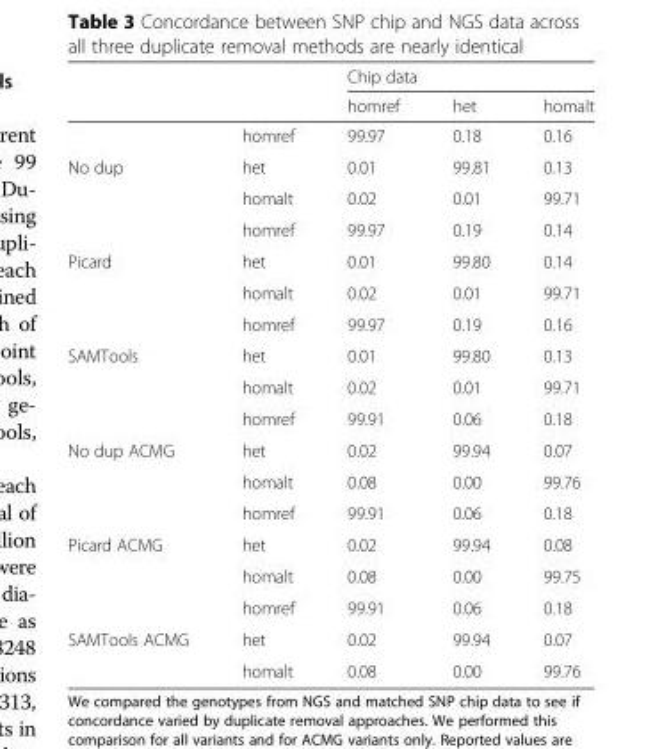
<table><thead><tr><td rowspan="2"></td><td rowspan="2"></td><td colspan="3">Chip data</td></tr><tr><td>homref</td><td>het</td><td>homalt</td></tr></thead><tbody><tr><td></td><td>homref</td><td>99.97</td><td>0.18</td><td>0.16</td></tr><tr><td rowspan="3">No dup</td><td>het</td><td>0.01</td><td>99.81</td><td>0.13</td></tr><tr><td>homalt</td><td>0.02</td><td>0.01</td><td>99.71</td></tr><tr><td>homref</td><td>99.97</td><td>0.19</td><td>0.14</td></tr><tr><td rowspan="3">Picard</td><td>het</td><td>0.01</td><td>99.80</td><td>0.14</td></tr><tr><td>homalt</td><td>0.02</td><td>0.01</td><td>99.71</td></tr><tr><td>homref</td><td>99.97</td><td>0.19</td><td>0.16</td></tr><tr><td rowspan="3">SAMTools</td><td>het</td><td>0.01</td><td>99.80</td><td>0.13</td></tr><tr><td>homalt</td><td>0.02</td><td>0.01</td><td>99.71</td></tr><tr><td>homref</td><td>99.91</td><td>0.06</td><td>0.18</td></tr><tr><td rowspan="3">No dup ACMG</td><td>het</td><td>0.02</td><td>99.94</td><td>0.07</td></tr><tr><td>homalt</td><td>0.08</td><td>0.00</td><td>99.76</td></tr><tr><td>homref</td><td>99.91</td><td>0.06</td><td>0.18</td></tr><tr><td rowspan="3">Picard ACMG</td><td>het</td><td>0.02</td><td>99.94</td><td>0.08</td></tr><tr><td>homalt</td><td>0.08</td><td>0.00</td><td>99.75</td></tr><tr><td>homref</td><td>99.91</td><td>0.06</td><td>0.18</td></tr><tr><td rowspan="2">SAMTools ACMG</td><td>het</td><td>0.02</td><td>99.94</td><td>0.07</td></tr><tr><td>homalt</td><td>0.08</td><td>0.00</td><td>99.76</td></tr></tbody></table>